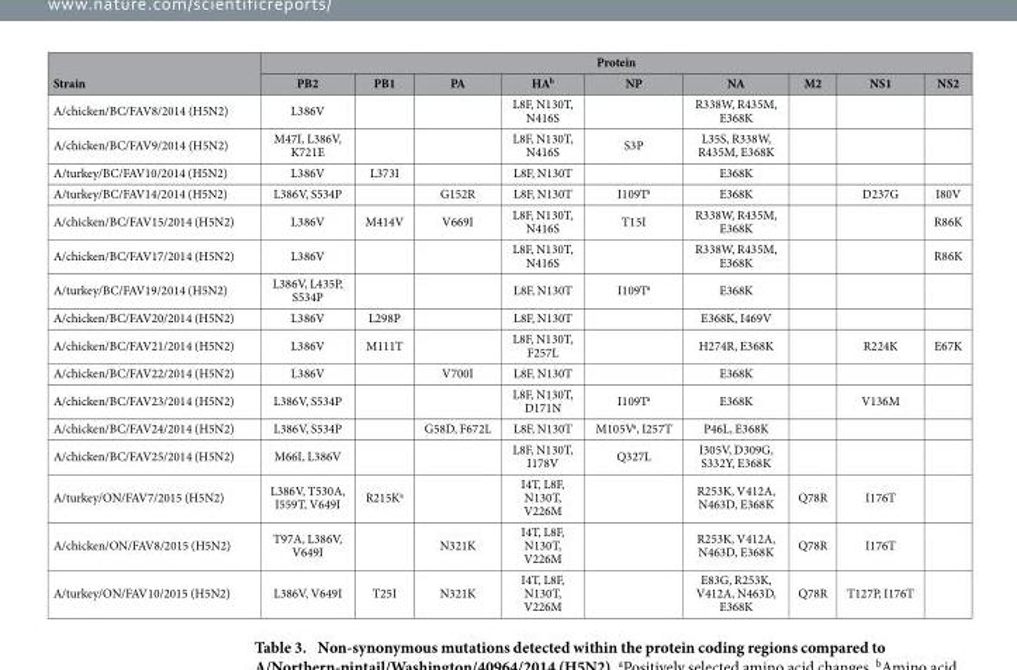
<table><thead><tr><td rowspan="2">Strain</td><td colspan="9">Protein</td></tr><tr><td>PB2</td><td>PB1</td><td>PA</td><td>HA<sup>b</sup></td><td>NP</td><td>NA</td><td>M2</td><td>NS1</td><td>NS2</td></tr></thead><tbody><tr><td>A/chicken/BC/FAV8/2014 (H5N2)</td><td>L386V</td><td></td><td></td><td>L8F, N130T, N416S</td><td></td><td>R338W, R435M, E368K</td><td></td><td></td><td></td></tr><tr><td>A/chicken/BC/FAV9/2014 (H5N2)</td><td>M47I, L386V, K721E</td><td></td><td></td><td>L8F, N130T, N416S</td><td>S3P</td><td>L35S, R338W, R435M, E368K</td><td></td><td></td><td></td></tr><tr><td>A/turkey/BC/FAV10/2014 (H5N2)</td><td>L386V</td><td>L373I</td><td></td><td>L8F, N130T</td><td></td><td>E368K</td><td></td><td></td><td></td></tr><tr><td>A/turkey/BC/FAV14/2014 (H5N2)</td><td>L386V, S534P</td><td></td><td>G152R</td><td>L8F, N130T</td><td>I109T<sup>a</sup></td><td>E368K</td><td></td><td>D237G</td><td>I80V</td></tr><tr><td>A/chicken/BC/FAV15/2014 (H5N2)</td><td>L386V</td><td>M414V</td><td>V669I</td><td>L8F, N130T, N416S</td><td>T15I</td><td>R338W, R435M, E368K</td><td></td><td></td><td>R86K</td></tr><tr><td>A/chicken/BC/FAV17/2014 (H5N2)</td><td>L386V</td><td></td><td></td><td>L8F, N130T, N416S</td><td></td><td>R338W, R435M, E368K</td><td></td><td></td><td>R86K</td></tr><tr><td>A/turkey/BC/FAV19/2014 (H5N2)</td><td>L386V, L435P, S534P</td><td></td><td></td><td>L8F, N130T</td><td>I109T<sup>a</sup></td><td>E368K</td><td></td><td></td><td></td></tr><tr><td>A/chicken/BC/FAV20/2014 (H5N2)</td><td>L386V</td><td>L298P</td><td></td><td>L8F, N130T</td><td></td><td>E368K, I469V</td><td></td><td></td><td></td></tr><tr><td>A/chicken/BC/FAV21/2014 (H5N2)</td><td>L386V</td><td>M111T</td><td></td><td>L8F, N130T, F257L</td><td></td><td>H274R, E368K</td><td></td><td>R224K</td><td>E67K</td></tr><tr><td>A/chicken/BC/FAV22/2014 (H5N2)</td><td>L386V</td><td></td><td>V700I</td><td>L8F, N130T</td><td></td><td>E368K</td><td></td><td></td><td></td></tr><tr><td>A/chicken/BC/FAV23/2014 (H5N2)</td><td>L386V, S534P</td><td></td><td></td><td>L8F, N130T, D171N</td><td>I109T<sup>a</sup></td><td>E368K</td><td></td><td>V136M</td><td></td></tr><tr><td>A/chicken/BC/FAV24/2014 (H5N2)</td><td>L386V, S534P</td><td></td><td>G58D, F672L</td><td>L8F, N130T</td><td>M105V<sup>a</sup>, I257T</td><td>P46L, E368K</td><td></td><td></td><td></td></tr><tr><td>A/chicken/BC/FAV25/2014 (H5N2)</td><td>M66I, L386V</td><td></td><td></td><td>L8F, N130T, I178V</td><td>Q327L</td><td>I305V, D309G, S332Y, E368K</td><td></td><td></td><td></td></tr><tr><td>A/turkey/ON/FAV7/2015 (H5N2)</td><td>L386V, T530A, I559T, V649I</td><td>R215K<sup>a</sup></td><td></td><td>I4T, L8F, N130T, V226M</td><td></td><td>R253K, V412A, N463D, E368K</td><td>Q78R</td><td>I176T</td><td></td></tr><tr><td>A/chicken/ON/FAV8/2015 (H5N2)</td><td>T97A, L386V, V649I</td><td></td><td>N321K</td><td>I4T, L8F, N130T, V226M</td><td></td><td>R253K, V412A, N463D, E368K</td><td>Q78R</td><td>I176T</td><td></td></tr><tr><td>A/turkey/ON/FAV10/2015 (H5N2)</td><td>L386V, V649I</td><td>T25I</td><td>N321K</td><td>I4T, L8F, N130T, V226M</td><td></td><td>E83G, R253K, V412A, N463D, E368K</td><td>Q78R</td><td>T127P, I176T</td><td></td></tr></tbody></table>